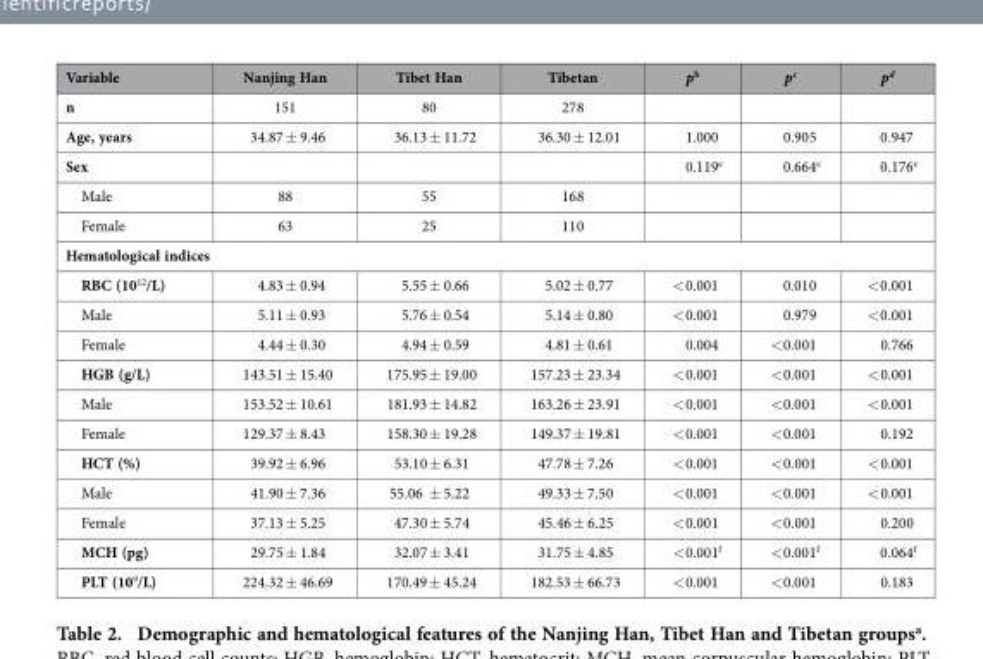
<table><thead><tr><td>Variable</td><td>Nanjing Han</td><td>Tibet Han</td><td>Tibetan</td><td>p<sup>b</sup></td><td>p<sup>c</sup></td><td>p<sup>d</sup></td></tr></thead><tbody><tr><td>n</td><td>151</td><td>80</td><td>278</td><td></td><td></td><td></td></tr><tr><td>Age, years</td><td>34.87 ± 9.46</td><td>36.13 ± 11.72</td><td>36.30 ± 12.01</td><td>1.000</td><td>0.905</td><td>0.947</td></tr><tr><td>Sex</td><td></td><td></td><td></td><td>0.119<sup>e</sup></td><td>0.664<sup>e</sup></td><td>0.176<sup>e</sup></td></tr><tr><td>Male</td><td>88</td><td>55</td><td>168</td><td></td><td></td><td></td></tr><tr><td>Female</td><td>63</td><td>25</td><td>110</td><td></td><td></td><td></td></tr><tr><td colspan="7">Hematological indices</td></tr><tr><td>RBC (10<sup>12</sup>/L)</td><td>4.83 ± 0.94</td><td>5.55 ± 0.66</td><td>5.02 ± 0.77</td><td>&lt; 0.001</td><td>0.010</td><td>&lt; 0.001</td></tr><tr><td>Male</td><td>5.11 ± 0.93</td><td>5.76 ± 0.54</td><td>5.14 ± 0.80</td><td>&lt; 0.001</td><td>0.979</td><td>&lt; 0.001</td></tr><tr><td>Female</td><td>4.44 ± 0.30</td><td>4.94 ± 0.59</td><td>4.81 ± 0.61</td><td>0.004</td><td>&lt; 0.001</td><td>0.766</td></tr><tr><td>HGB (g/L)</td><td>143.51 ± 15.40</td><td>175.95 ± 19.00</td><td>157.23 ± 23.34</td><td>&lt; 0.001</td><td>&lt; 0.001</td><td>&lt; 0.001</td></tr><tr><td>Male</td><td>153.52 ± 10.61</td><td>181.93 ± 14.82</td><td>163.26 ± 23.91</td><td>&lt; 0.001</td><td>&lt; 0.001</td><td>&lt; 0.001</td></tr><tr><td>Female</td><td>129.37 ± 8.43</td><td>158.30 ± 19.28</td><td>149.37 ± 19.81</td><td>&lt; 0.001</td><td>&lt; 0.001</td><td>0.192</td></tr><tr><td>HCT (%)</td><td>39.92 ± 6.96</td><td>53.10 ± 6.31</td><td>47.78 ± 7.26</td><td>&lt; 0.001</td><td>&lt; 0.001</td><td>&lt; 0.001</td></tr><tr><td>Male</td><td>41.90 ± 7.36</td><td>55.06 ± 5.22</td><td>49.33 ± 7.50</td><td>&lt; 0.001</td><td>&lt; 0.001</td><td>&lt; 0.001</td></tr><tr><td>Female</td><td>37.13 ± 5.25</td><td>47.30 ± 5.74</td><td>45.46 ± 6.25</td><td>&lt; 0.001</td><td>&lt; 0.001</td><td>0.200</td></tr><tr><td>MCH (pg)</td><td>29.75 ± 1.84</td><td>32.07 ± 3.41</td><td>31.75 ± 4.85</td><td>&lt; 0.001<sup>f</sup></td><td>&lt; 0.001<sup>f</sup></td><td>0.064<sup>f</sup></td></tr><tr><td>PLT (10<sup>9</sup>/L)</td><td>224.32 ± 46.69</td><td>170.49 ± 45.24</td><td>182.53 ± 66.73</td><td>&lt; 0.001</td><td>&lt; 0.001</td><td>0.183</td></tr></tbody></table>